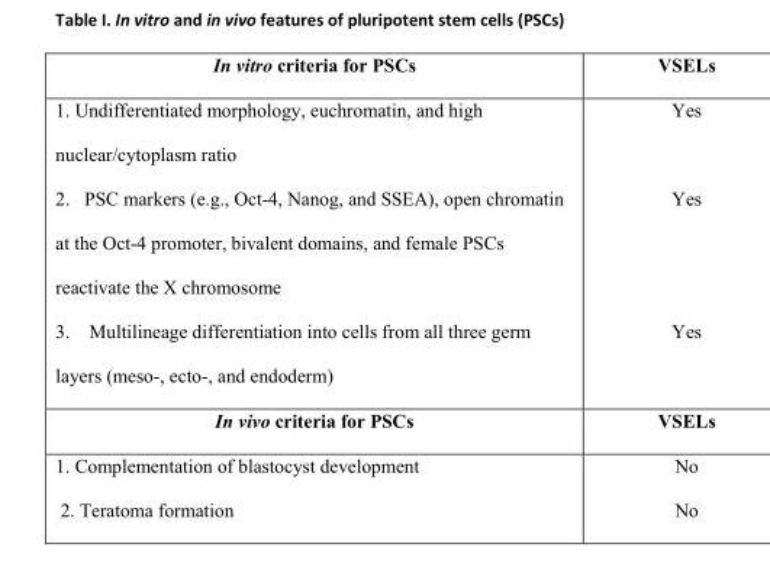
<table><thead><tr><td>In vitro criteria for PSCs</td><td>VSELs</td></tr></thead><tbody><tr><td>1. Undifferentiated morphology, euchromatin, and high nuclear/cytoplasm ratio 2. PSC markers (e.g., Oct-4, Nanog, and SSEA), open chromatin at the Oct-4 promoter, bivalent domains, and female PSCs reactivate the X chromosome 3. Multilineage differentiation into cells from all three germ layers (meso-, ecto-, and endoderm)</td><td>Yes Yes Yes</td></tr><tr><td>In vivo criteria for PSCs</td><td>VSELs</td></tr><tr><td>1. Complementation of blastocyst development 2. Teratoma formation</td><td>No No</td></tr></tbody></table>